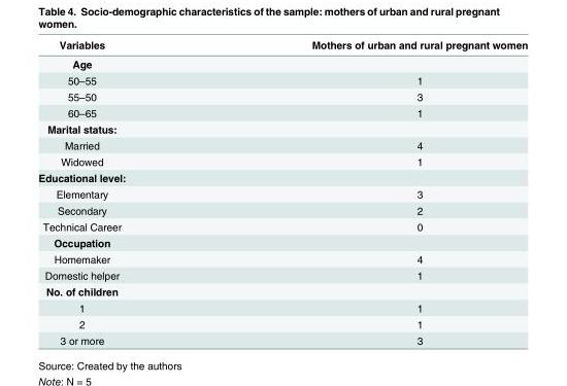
<table><thead><tr><td>Variables</td><td>Mothers of urban and rural pregnant women</td></tr></thead><tbody><tr><td colspan="2">Age</td></tr><tr><td>50–55</td><td>1</td></tr><tr><td>55–50</td><td>3</td></tr><tr><td>60–65</td><td>1</td></tr><tr><td colspan="2">Marital status:</td></tr><tr><td>Married</td><td>4</td></tr><tr><td>Widowed</td><td>1</td></tr><tr><td colspan="2">Educational level:</td></tr><tr><td>Elementary</td><td>3</td></tr><tr><td>Secondary</td><td>2</td></tr><tr><td>Technical Career</td><td>0</td></tr><tr><td colspan="2">Occupation</td></tr><tr><td>Homemaker</td><td>4</td></tr><tr><td>Domestic helper</td><td>1</td></tr><tr><td colspan="2">No. of children</td></tr><tr><td>1</td><td>1</td></tr><tr><td>2</td><td>1</td></tr><tr><td>3 or more</td><td>3</td></tr></tbody></table>